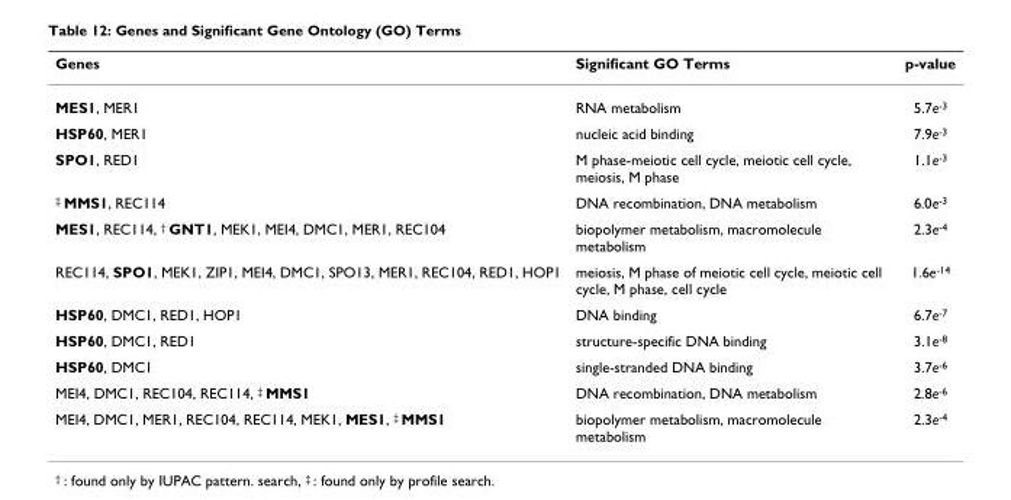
<table><thead><tr><td>Genes</td><td>Significant GO Terms</td><td>p-value</td></tr></thead><tbody><tr><td>MES1, MER1</td><td>RNA metabolism</td><td>5.7e<sup>-3</sup></td></tr><tr><td>HSP60, MER1</td><td>nucleic acid binding</td><td>7.9e<sup>-3</sup></td></tr><tr><td>SPO1, RED1</td><td>M phase-meiotic cell cycle, meiotic cell cycle, meiosis, M phase</td><td>1.1e<sup>-3</sup></td></tr><tr><td><sup>‡</sup> MMS1, REC114</td><td>DNA recombination, DNA metabolism</td><td>6.0e<sup>-3</sup></td></tr><tr><td>MES1, REC114, <sup>†</sup> GNT1, MEK1, MEI4, DMC1, MER1, REC104</td><td>biopolymer metabolism, macromolecule metabolism</td><td>2.3e<sup>-4</sup></td></tr><tr><td>REC114, SPO1, MEK1, ZIP1, MEI4, DMC1, SPO13, MER1, REC104, RED1, HOP1</td><td>meiosis, M phase of meiotic cell cycle, meiotic cell cycle, M phase, cell cycle</td><td>1.6e<sup>-14</sup></td></tr><tr><td>HSP60, DMC1, RED1, HOP1</td><td>DNA binding</td><td>6.7e<sup>-7</sup></td></tr><tr><td>HSP60, DMC1, RED1</td><td>structure-specific DNA binding</td><td>3.1e<sup>-8</sup></td></tr><tr><td>HSP60, DMC1</td><td>single-stranded DNA binding</td><td>3.7e<sup>-6</sup></td></tr><tr><td>MEI4, DMC1, REC104, REC114, <sup>‡</sup> MMS1</td><td>DNA recombination, DNA metabolism</td><td>2.8e<sup>-6</sup></td></tr><tr><td>MEI4, DMC1, MER1, REC104, REC114, MEK1, MES1, <sup>‡</sup> MMS1</td><td>biopolymer metabolism, macromolecule metabolism</td><td>2.3e<sup>-4</sup></td></tr></tbody></table>